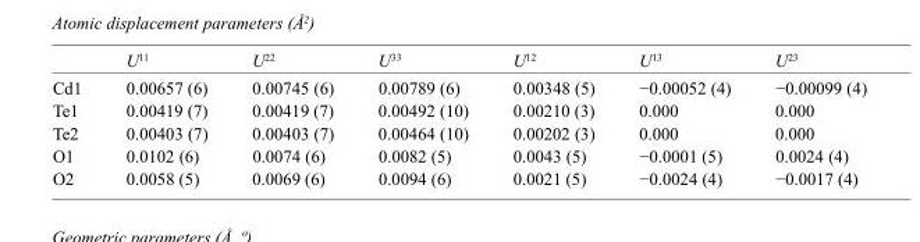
<table><thead><tr><td></td><td>U<sup>11</sup></td><td>U<sup>22</sup></td><td>U<sup>33</sup></td><td>U<sup>12</sup></td><td>U<sup>13</sup></td><td>U<sup>23</sup></td></tr></thead><tbody><tr><td>Cd1</td><td>0.00657 (6)</td><td>0.00745 (6)</td><td>0.00789 (6)</td><td>0.00348 (5)</td><td>−0.00052 (4)</td><td>−0.00099 (4)</td></tr><tr><td>Te1</td><td>0.00419 (7)</td><td>0.00419 (7)</td><td>0.00492 (10)</td><td>0.00210 (3)</td><td>0.000</td><td>0.000</td></tr><tr><td>Te2</td><td>0.00403 (7)</td><td>0.00403 (7)</td><td>0.00464 (10)</td><td>0.00202 (3)</td><td>0.000</td><td>0.000</td></tr><tr><td>O1</td><td>0.0102 (6)</td><td>0.0074 (6)</td><td>0.0082 (5)</td><td>0.0043 (5)</td><td>−0.0001 (5)</td><td>0.0024 (4)</td></tr><tr><td>O2</td><td>0.0058 (5)</td><td>0.0069 (6)</td><td>0.0094 (6)</td><td>0.0021 (5)</td><td>−0.0024 (4)</td><td>−0.0017 (4)</td></tr></tbody></table>